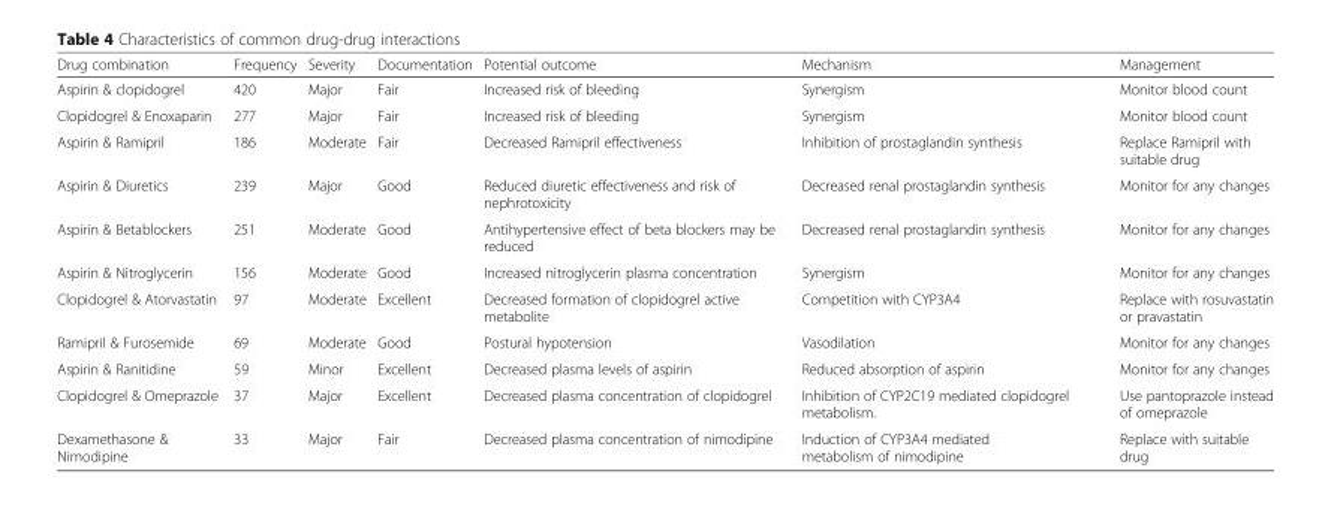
<table><thead><tr><td>Drug combination</td><td>Frequency</td><td>Severity</td><td>Documentation</td><td>Potential outcome</td><td>Mechanism</td><td>Management</td></tr></thead><tbody><tr><td>Aspirin &amp; clopidogrel</td><td>420</td><td>Major</td><td>Fair</td><td>Increased risk of bleeding</td><td>Synergism</td><td>Monitor blood count</td></tr><tr><td>Clopidogrel &amp; Enoxaparin</td><td>277</td><td>Major</td><td>Fair</td><td>Increased risk of bleeding</td><td>Synergism</td><td>Monitor blood count</td></tr><tr><td>Aspirin &amp; Ramipril</td><td>186</td><td>Moderate</td><td>Fair</td><td>Decreased Ramipril effectiveness</td><td>Inhibition of prostaglandin synthesis</td><td>Replace Ramipril with suitable drug</td></tr><tr><td>Aspirin &amp; Diuretics</td><td>239</td><td>Major</td><td>Good</td><td>Reduced diuretic effectiveness and risk of nephrotoxicity</td><td>Decreased renal prostaglandin synthesis</td><td>Monitor for any changes</td></tr><tr><td>Aspirin &amp; Betablockers</td><td>251</td><td>Moderate</td><td>Good</td><td>Antihypertensive effect of beta blockers may be reduced</td><td>Decreased renal prostaglandin synthesis</td><td>Monitor for any changes</td></tr><tr><td>Aspirin &amp; Nitroglycerin</td><td>156</td><td>Moderate</td><td>Good</td><td>Increased nitroglycerin plasma concentration</td><td>Synergism</td><td>Monitor for any changes</td></tr><tr><td>Clopidogrel &amp; Atorvastatin</td><td>97</td><td>Moderate</td><td>Excellent</td><td>Decreased formation of clopidogrel active metabolite</td><td>Competition with CYP3A4</td><td>Replace with rosuvastatin or pravastatin</td></tr><tr><td>Ramipril &amp; Furosemide</td><td>69</td><td>Moderate</td><td>Good</td><td>Postural hypotension</td><td>Vasodilation</td><td>Monitor for any changes</td></tr><tr><td>Aspirin &amp; Ranitidine</td><td>59</td><td>Minor</td><td>Excellent</td><td>Decreased plasma levels of aspirin</td><td>Reduced absorption of aspirin</td><td>Monitor for any changes</td></tr><tr><td>Clopidogrel &amp; Omeprazole</td><td>37</td><td>Major</td><td>Excellent</td><td>Decreased plasma concentration of clopidogrel</td><td>Inhibition of CYP2C19 mediated clopidogrel metabolism.</td><td>Use pantoprazole instead of omeprazole</td></tr><tr><td>Dexamethasone &amp; Nimodipine</td><td>33</td><td>Major</td><td>Fair</td><td>Decreased plasma concentration of nimodipine</td><td>Induction of CYP3A4 mediated metabolism of nimodipine</td><td>Replace with suitable drug</td></tr></tbody></table>